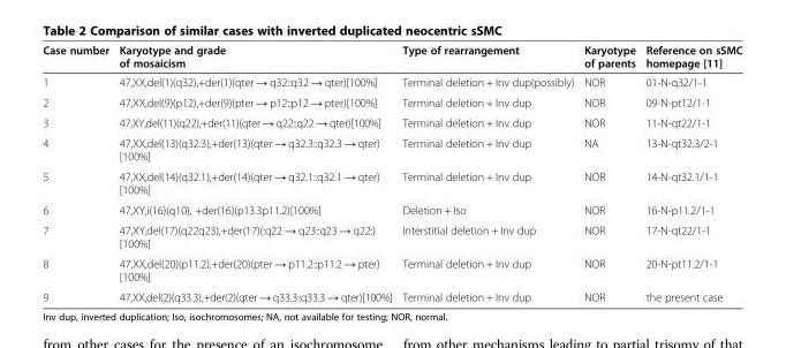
<table><thead><tr><td>Case number</td><td>Karyotype and grade of mosaicism</td><td>Type of rearrangement</td><td>Karyotype of parents</td><td>Reference on sSMC homepage [11]</td></tr></thead><tbody><tr><td>1</td><td>47,XX,del(1)(q32),+der(1)(qter → q32::q32 → qter)[100%]</td><td>Terminal deletion + Inv dup(possibly)</td><td>NOR</td><td>01-N-q32/1-1</td></tr><tr><td>2</td><td>47,XX,del(9)(p12),+der(9)(pter → p12::p12 → pter)[100%]</td><td>Terminal deletion + Inv dup</td><td>NOR</td><td>09-N-pt12/1-1</td></tr><tr><td>3</td><td>47,XY,del(11)(q22),+der(11)(qter → q22::q22 → qter)[100%]</td><td>Terminal deletion + Inv dup</td><td>NOR</td><td>11-N-qt22/1-1</td></tr><tr><td>4</td><td>47,XX,del(13)(q32.3),+der(13)(qter → q32.3::q32.3 → qter) [100%]</td><td>Terminal deletion + Inv dup</td><td>NA</td><td>13-N-qt32.3/2-1</td></tr><tr><td>5</td><td>47,XX,del(14)(q32.1),+der(14)(qter → q32.1::q32.1 → qter) [100%]</td><td>Terminal deletion + Inv dup</td><td>NOR</td><td>14-N-qt32.1/1-1</td></tr><tr><td>6</td><td>47,XY,i(16)(q10), +der(16)(p13.3p11.2)[100%]</td><td>Deletion + Iso</td><td>NOR</td><td>16-N-p11.2/1-1</td></tr><tr><td>7</td><td>47,XY,del(17)(q22q23),+der(17)(:q22 → q23::q23 → q22:) [100%]</td><td>Interstitial deletion + Inv dup</td><td>NOR</td><td>17-N-qt22/1-1</td></tr><tr><td>8</td><td>47,XX,del(20)(p11.2),+der(20)(pter → p11.2::p11.2 → pter) [100%]</td><td>Terminal deletion + Inv dup</td><td>NOR</td><td>20-N-pt11.2/1-1</td></tr><tr><td>9</td><td>47,XX,del(2)(q33.3),+der(2)(qter → q33.3::q33.3 → qter)[100%]</td><td>Terminal deletion + Inv dup</td><td>NOR</td><td>the present case</td></tr></tbody></table>